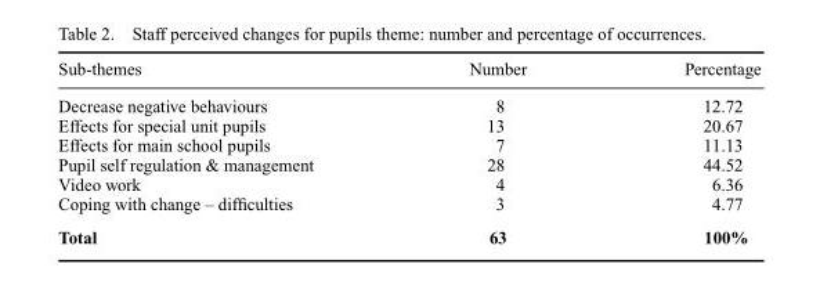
<table><thead><tr><td>Sub-themes</td><td>Number</td><td>Percentage</td></tr></thead><tbody><tr><td>Decrease negative behaviours</td><td>8</td><td>12.72</td></tr><tr><td>Effects for special unit pupils</td><td>13</td><td>20.67</td></tr><tr><td>Effects for main school pupils</td><td>7</td><td>11.13</td></tr><tr><td>Pupil self regulation &amp; management</td><td>28</td><td>44.52</td></tr><tr><td>Video work</td><td>4</td><td>6.36</td></tr><tr><td>Coping with change – difficulties</td><td>3</td><td>4.77</td></tr><tr><td>Total</td><td>63</td><td>100%</td></tr></tbody></table>